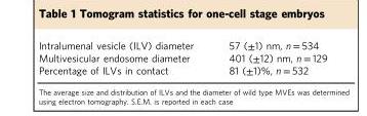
<table><tbody><tr><td>Intralumenal vesicle (ILV) diameter</td><td>57 (±1) nm, n = 534</td></tr><tr><td>Multivesicular endosome diameter</td><td>401 (±12) nm, n = 129</td></tr><tr><td>Percentage of ILVs in contact</td><td>81 (±1)%, n = 532</td></tr></tbody></table>